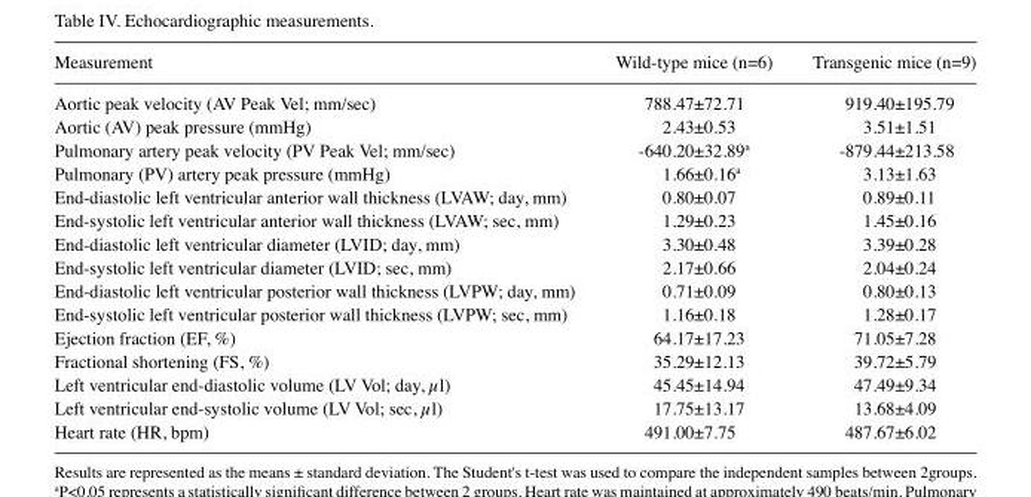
<table><thead><tr><td>Measurement</td><td>Wild-type mice (n=6)</td><td>Transgenic mice (n=9)</td></tr></thead><tbody><tr><td>Aortic peak velocity (AV Peak Vel; mm/sec)</td><td>788.47±72.71</td><td>919.40±195.79</td></tr><tr><td>Aortic (AV) peak pressure (mmHg)</td><td>2.43±0.53</td><td>3.51±1.51</td></tr><tr><td>Pulmonary artery peak velocity (PV Peak Vel; mm/sec)</td><td>-640.20±32.89<sup>a</sup></td><td>-879.44±213.58</td></tr><tr><td>Pulmonary (PV) artery peak pressure (mmHg)</td><td>1.66±0.16<sup>a</sup></td><td>3.13±1.63</td></tr><tr><td>End-diastolic left ventricular anterior wall thickness (LVAW; day, mm)</td><td>0.80±0.07</td><td>0.89±0.11</td></tr><tr><td>End-systolic left ventricular anterior wall thickness (LVAW; sec, mm)</td><td>1.29±0.23</td><td>1.45±0.16</td></tr><tr><td>End-diastolic left ventricular diameter (LVID; day, mm)</td><td>3.30±0.48</td><td>3.39±0.28</td></tr><tr><td>End-systolic left ventricular diameter (LVID; sec, mm)</td><td>2.17±0.66</td><td>2.04±0.24</td></tr><tr><td>End-diastolic left ventricular posterior wall thickness (LVPW; day, mm)</td><td>0.71±0.09</td><td>0.80±0.13</td></tr><tr><td>End-systolic left ventricular posterior wall thickness (LVPW; sec, mm)</td><td>1.16±0.18</td><td>1.28±0.17</td></tr><tr><td>Ejection fraction (EF, %)</td><td>64.17±17.23</td><td>71.05±7.28</td></tr><tr><td>Fractional shortening (FS, %)</td><td>35.29±12.13</td><td>39.72±5.79</td></tr><tr><td>Left ventricular end-diastolic volume (LV Vol; day, µl)</td><td>45.45±14.94</td><td>47.49±9.34</td></tr><tr><td>Left ventricular end-systolic volume (LV Vol; sec, µl)</td><td>17.75±13.17</td><td>13.68±4.09</td></tr><tr><td>Heart rate (HR, bpm)</td><td>491.00±7.75</td><td>487.67±6.02</td></tr></tbody></table>